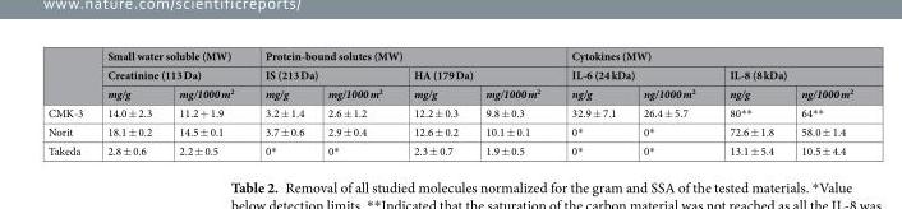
<table><thead><tr><td rowspan="3"></td><td rowspan="2" colspan="2">Small water soluble (MW) Creatinine (113 Da)</td><td colspan="4">Protein-bound solutes (MW)</td><td colspan="4">Cytokines (MW)</td></tr><tr><td colspan="2">IS (213 Da)</td><td colspan="2">HA (179 Da)</td><td colspan="2">IL-6 (24 kDa)</td><td colspan="2">IL-8 (8 kDa)</td></tr><tr><td>mg/g</td><td>mg/1000 m<sup>2</sup></td><td>mg/g</td><td>mg/1000 m<sup>2</sup></td><td>mg/g</td><td>mg/1000 m<sup>2</sup></td><td>ng/g</td><td>ng/1000 m<sup>2</sup></td><td>ng/g</td><td>ng/1000 m<sup>2</sup></td></tr></thead><tbody><tr><td>CMK-3</td><td>14.0 ± 2.3</td><td>11.2 + 1.9</td><td>3.2 ± 1.4</td><td>2.6 ± 1.2</td><td>12.2 ± 0.3</td><td>9.8 ± 0.3</td><td>32.9 ± 7.1</td><td>26.4 ± 5.7</td><td>80**</td><td>64**</td></tr><tr><td>Norit</td><td>18.1 ± 0.2</td><td>14.5 ± 0.1</td><td>3.7 ± 0.6</td><td>2.9 ± 0.4</td><td>12.6 ± 0.2</td><td>10.1 ± 0.1</td><td>0*</td><td>0*</td><td>72.6 ± 1.8</td><td>58.0 ± 1.4</td></tr><tr><td>Takeda</td><td>2.8 ± 0.6</td><td>2.2 ± 0.5</td><td>0*</td><td>0*</td><td>2.3 ± 0.7</td><td>1.9 ± 0.5</td><td>0*</td><td>0*</td><td>13.1 ± 5.4</td><td>10.5 ± 4.4</td></tr></tbody></table>